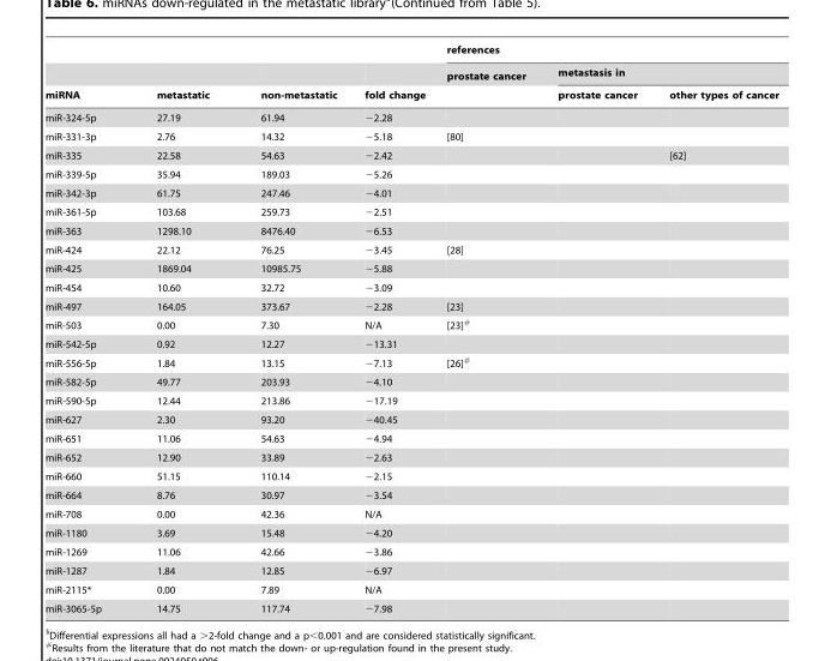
<table><thead><tr><td rowspan="3">miRNA</td><td rowspan="3">metastatic</td><td rowspan="3">non-metastatic</td><td rowspan="3">fold change</td><td colspan="3">references</td></tr><tr><td rowspan="2">prostate cancer</td><td colspan="2">metastasis in</td></tr><tr><td>prostate cancer</td><td>other types of cancer</td></tr></thead><tbody><tr><td>miR-324-5p</td><td>27.19</td><td>61.94</td><td>−2.28</td><td></td><td></td><td></td></tr><tr><td>miR-331-3p</td><td>2.76</td><td>14.32</td><td>−5.18</td><td>[80]</td><td></td><td></td></tr><tr><td>miR-335</td><td>22.58</td><td>54.63</td><td>−2.42</td><td></td><td></td><td>[62]</td></tr><tr><td>miR-339-5p</td><td>35.94</td><td>189.03</td><td>−5.26</td><td></td><td></td><td></td></tr><tr><td>miR-342-3p</td><td>61.75</td><td>247.46</td><td>−4.01</td><td></td><td></td><td></td></tr><tr><td>miR-361-5p</td><td>103.68</td><td>259.73</td><td>−2.51</td><td></td><td></td><td></td></tr><tr><td>miR-363</td><td>1298.10</td><td>8476.40</td><td>−6.53</td><td></td><td></td><td></td></tr><tr><td>miR-424</td><td>22.12</td><td>76.25</td><td>−3.45</td><td>[28]</td><td></td><td></td></tr><tr><td>miR-425</td><td>1869.04</td><td>10985.75</td><td>−5.88</td><td></td><td></td><td></td></tr><tr><td>miR-454</td><td>10.60</td><td>32.72</td><td>−3.09</td><td></td><td></td><td></td></tr><tr><td>miR-497</td><td>164.05</td><td>373.67</td><td>−2.28</td><td>[23]</td><td></td><td></td></tr><tr><td>miR-503</td><td>0.00</td><td>7.30</td><td>N/A</td><td>[23]#</td><td></td><td></td></tr><tr><td>miR-542-5p</td><td>0.92</td><td>12.27</td><td>−13.31</td><td></td><td></td><td></td></tr><tr><td>miR-556-5p</td><td>1.84</td><td>13.15</td><td>−7.13</td><td>[26]#</td><td></td><td></td></tr><tr><td>miR-582-5p</td><td>49.77</td><td>203.93</td><td>−4.10</td><td></td><td></td><td></td></tr><tr><td>miR-590-5p</td><td>12.44</td><td>213.86</td><td>−17.19</td><td></td><td></td><td></td></tr><tr><td>miR-627</td><td>2.30</td><td>93.20</td><td>−40.45</td><td></td><td></td><td></td></tr><tr><td>miR-651</td><td>11.06</td><td>54.63</td><td>−4.94</td><td></td><td></td><td></td></tr><tr><td>miR-652</td><td>12.90</td><td>33.89</td><td>−2.63</td><td></td><td></td><td></td></tr><tr><td>miR-660</td><td>51.15</td><td>110.14</td><td>−2.15</td><td></td><td></td><td></td></tr><tr><td>miR-664</td><td>8.76</td><td>30.97</td><td>−3.54</td><td></td><td></td><td></td></tr><tr><td>miR-708</td><td>0.00</td><td>42.36</td><td>N/A</td><td></td><td></td><td></td></tr><tr><td>miR-1180</td><td>3.69</td><td>15.48</td><td>−4.20</td><td></td><td></td><td></td></tr><tr><td>miR-1269</td><td>11.06</td><td>42.66</td><td>−3.86</td><td></td><td></td><td></td></tr><tr><td>miR-1287</td><td>1.84</td><td>12.85</td><td>−6.97</td><td></td><td></td><td></td></tr><tr><td>miR-2115*</td><td>0.00</td><td>7.89</td><td>N/A</td><td></td><td></td><td></td></tr><tr><td>miR-3065-5p</td><td>14.75</td><td>117.74</td><td>−7.98</td><td></td><td></td><td></td></tr></tbody></table>